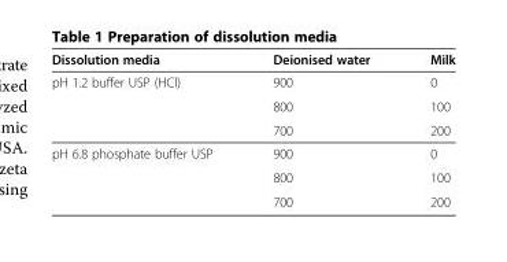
<table><thead><tr><td>Dissolution media</td><td>Deionised water</td><td>Milk</td></tr></thead><tbody><tr><td rowspan="3">pH 1.2 buffer USP (HCl)</td><td>900</td><td>0</td></tr><tr><td>800</td><td>100</td></tr><tr><td>700</td><td>200</td></tr><tr><td rowspan="3">pH 6.8 phosphate buffer USP</td><td>900</td><td>0</td></tr><tr><td>800</td><td>100</td></tr><tr><td>700</td><td>200</td></tr></tbody></table>